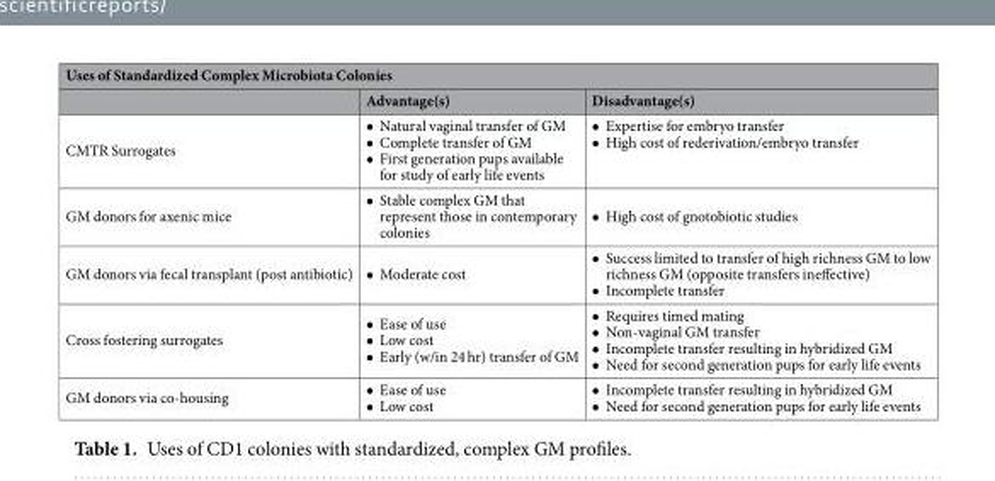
<table><thead><tr><td colspan="3">Uses of Standardized Complex Microbiota Colonies</td></tr><tr><td></td><td>Advantage(s)</td><td>Disadvantage(s)</td></tr></thead><tbody><tr><td>CMTR Surrogates</td><td>• Natural vaginal transfer of GM • Complete transfer of GM • First generation pups available for study of early life events</td><td>• Expertise for embryo transfer • High cost of rederivation/embryo transfer</td></tr><tr><td>GM donors for axenic mice</td><td>• Stable complex GM that represent those in contemporary colonies</td><td>• High cost of gnotobiotic studies</td></tr><tr><td>GM donors via fecal transplant (post antibiotic)</td><td>• Moderate cost</td><td>• Success limited to transfer of high richness GM to low richness GM (opposite transfers ineffective) • Incomplete transfer</td></tr><tr><td>Cross fostering surrogates</td><td>• Ease of use • Low cost • Early (w/in 24 hr) transfer of GM</td><td>• Requires timed mating • Non-vaginal GM transfer • Incomplete transfer resulting in hybridized GM • Need for second generation pups for early life events</td></tr><tr><td>GM donors via co-housing</td><td>• Ease of use • Low cost</td><td>• Incomplete transfer resulting in hybridized GM • Need for second generation pups for early life events</td></tr></tbody></table>